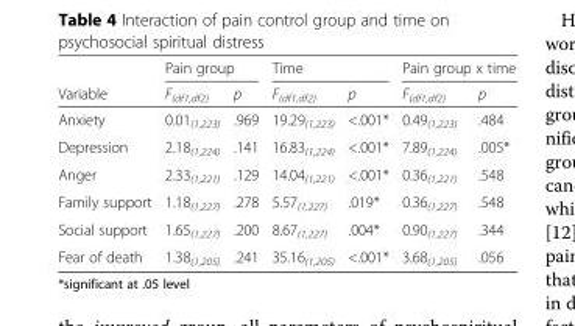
<table><thead><tr><td rowspan="2">Variable</td><td colspan="2">Pain group</td><td colspan="2">Time</td><td colspan="2">Pain group x time</td></tr><tr><td>F<sub>(df1,df2)</sub></td><td>p</td><td>F<sub>(df1,df2)</sub></td><td>p</td><td>F<sub>(df1,df2)</sub></td><td>p</td></tr></thead><tbody><tr><td>Anxiety</td><td>0.01<sub>(1,223)</sub></td><td>.969</td><td>19.29<sub>(1,223)</sub></td><td>&lt;.001*</td><td>0.49<sub>(1,223)</sub></td><td>.484</td></tr><tr><td>Depression</td><td>2.18<sub>(1,224)</sub></td><td>.141</td><td>16.83<sub>(1,224)</sub></td><td>&lt;.001*</td><td>7.89<sub>(1,224)</sub></td><td>.005*</td></tr><tr><td>Anger</td><td>2.33<sub>(1,221)</sub></td><td>.129</td><td>14.04<sub>(1,221)</sub></td><td>&lt;.001*</td><td>0.36<sub>(1,221)</sub></td><td>.548</td></tr><tr><td>Family support</td><td>1.18<sub>(1,227)</sub></td><td>.278</td><td>5.57<sub>(1,227)</sub></td><td>.019*</td><td>0.36<sub>(1,227)</sub></td><td>.548</td></tr><tr><td>Social support</td><td>1.65<sub>(1,227)</sub></td><td>.200</td><td>8.67<sub>(1,227)</sub></td><td>.004*</td><td>0.90<sub>(1,227)</sub></td><td>.344</td></tr><tr><td>Fear of death</td><td>1.38<sub>(1,205)</sub></td><td>.241</td><td>35.16<sub>(1,205)</sub></td><td>&lt;.001*</td><td>3.68<sub>(1,205)</sub></td><td>.056</td></tr></tbody></table>